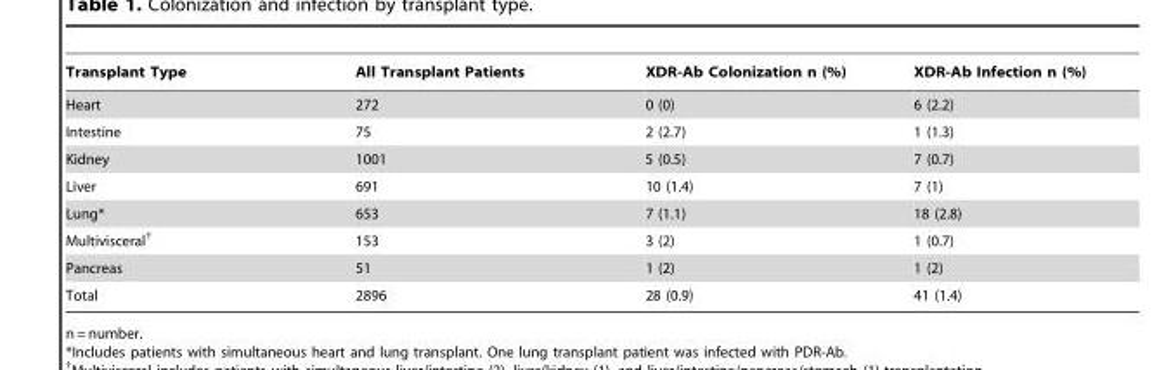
<table><thead><tr><td>Transplant Type</td><td>All Transplant Patients</td><td>XDR-Ab Colonization n (%)</td><td>XDR-Ab Infection n (%)</td></tr></thead><tbody><tr><td>Heart</td><td>272</td><td>0 (0)</td><td>6 (2.2)</td></tr><tr><td>Intestine</td><td>75</td><td>2 (2.7)</td><td>1 (1.3)</td></tr><tr><td>Kidney</td><td>1001</td><td>5 (0.5)</td><td>7 (0.7)</td></tr><tr><td>Liver</td><td>691</td><td>10 (1.4)</td><td>7 (1)</td></tr><tr><td>Lung*</td><td>653</td><td>7 (1.1)</td><td>18 (2.8)</td></tr><tr><td>Multivisceral†</td><td>153</td><td>3 (2)</td><td>1 (0.7)</td></tr><tr><td>Pancreas</td><td>51</td><td>1 (2)</td><td>1 (2)</td></tr><tr><td>Total</td><td>2896</td><td>28 (0.9)</td><td>41 (1.4)</td></tr></tbody></table>